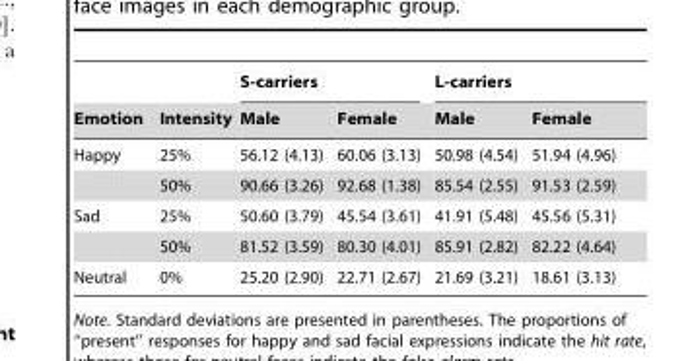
<table><thead><tr><td rowspan="2">Emotion</td><td rowspan="2">Intensity</td><td colspan="2">S-carriers</td><td colspan="2">L-carriers</td></tr><tr><td>Male</td><td>Female</td><td>Male</td><td>Female</td></tr></thead><tbody><tr><td rowspan="2">Happy</td><td>25%</td><td>56.12 (4.13)</td><td>60.06 (3.13)</td><td>50.98 (4.54)</td><td>51.94 (4.96)</td></tr><tr><td>50%</td><td>90.66 (3.26)</td><td>92.68 (1.38)</td><td>85.54 (2.55)</td><td>91.53 (2.59)</td></tr><tr><td rowspan="2">Sad</td><td>25%</td><td>50.60 (3.79)</td><td>45.54 (3.61)</td><td>41.91 (5.48)</td><td>45.56 (5.31)</td></tr><tr><td>50%</td><td>81.52 (3.59)</td><td>80.30 (4.01)</td><td>85.91 (2.82)</td><td>82.22 (4.64)</td></tr><tr><td>Neutral</td><td>0%</td><td>25.20 (2.90)</td><td>22.71 (2.67)</td><td>21.69 (3.21)</td><td>18.61 (3.13)</td></tr></tbody></table>